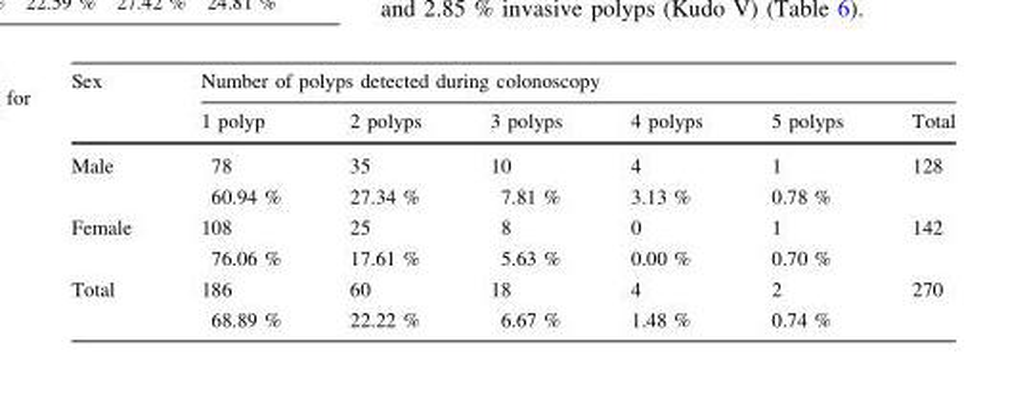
<table><thead><tr><td rowspan="2">Sex</td><td colspan="6">Number of polyps detected during colonoscopy</td></tr><tr><td>1 polyp</td><td>2 polyps</td><td>3 polyps</td><td>4 polyps</td><td>5 polyps</td><td>Total</td></tr></thead><tbody><tr><td rowspan="2">Male</td><td>78</td><td>35</td><td>10</td><td>4</td><td>1</td><td rowspan="2">128</td></tr><tr><td>60.94 %</td><td>27.34 %</td><td>7.81 %</td><td>3.13 %</td><td>0.78 %</td></tr><tr><td rowspan="2">Female</td><td>108</td><td>25</td><td>8</td><td>0</td><td>1</td><td rowspan="2">142</td></tr><tr><td>76.06 %</td><td>17.61 %</td><td>5.63 %</td><td>0.00 %</td><td>0.70 %</td></tr><tr><td rowspan="2">Total</td><td>186</td><td>60</td><td>18</td><td>4</td><td>2</td><td rowspan="2">270</td></tr><tr><td>68.89 %</td><td>22.22 %</td><td>6.67 %</td><td>1.48 %</td><td>0.74 %</td></tr></tbody></table>